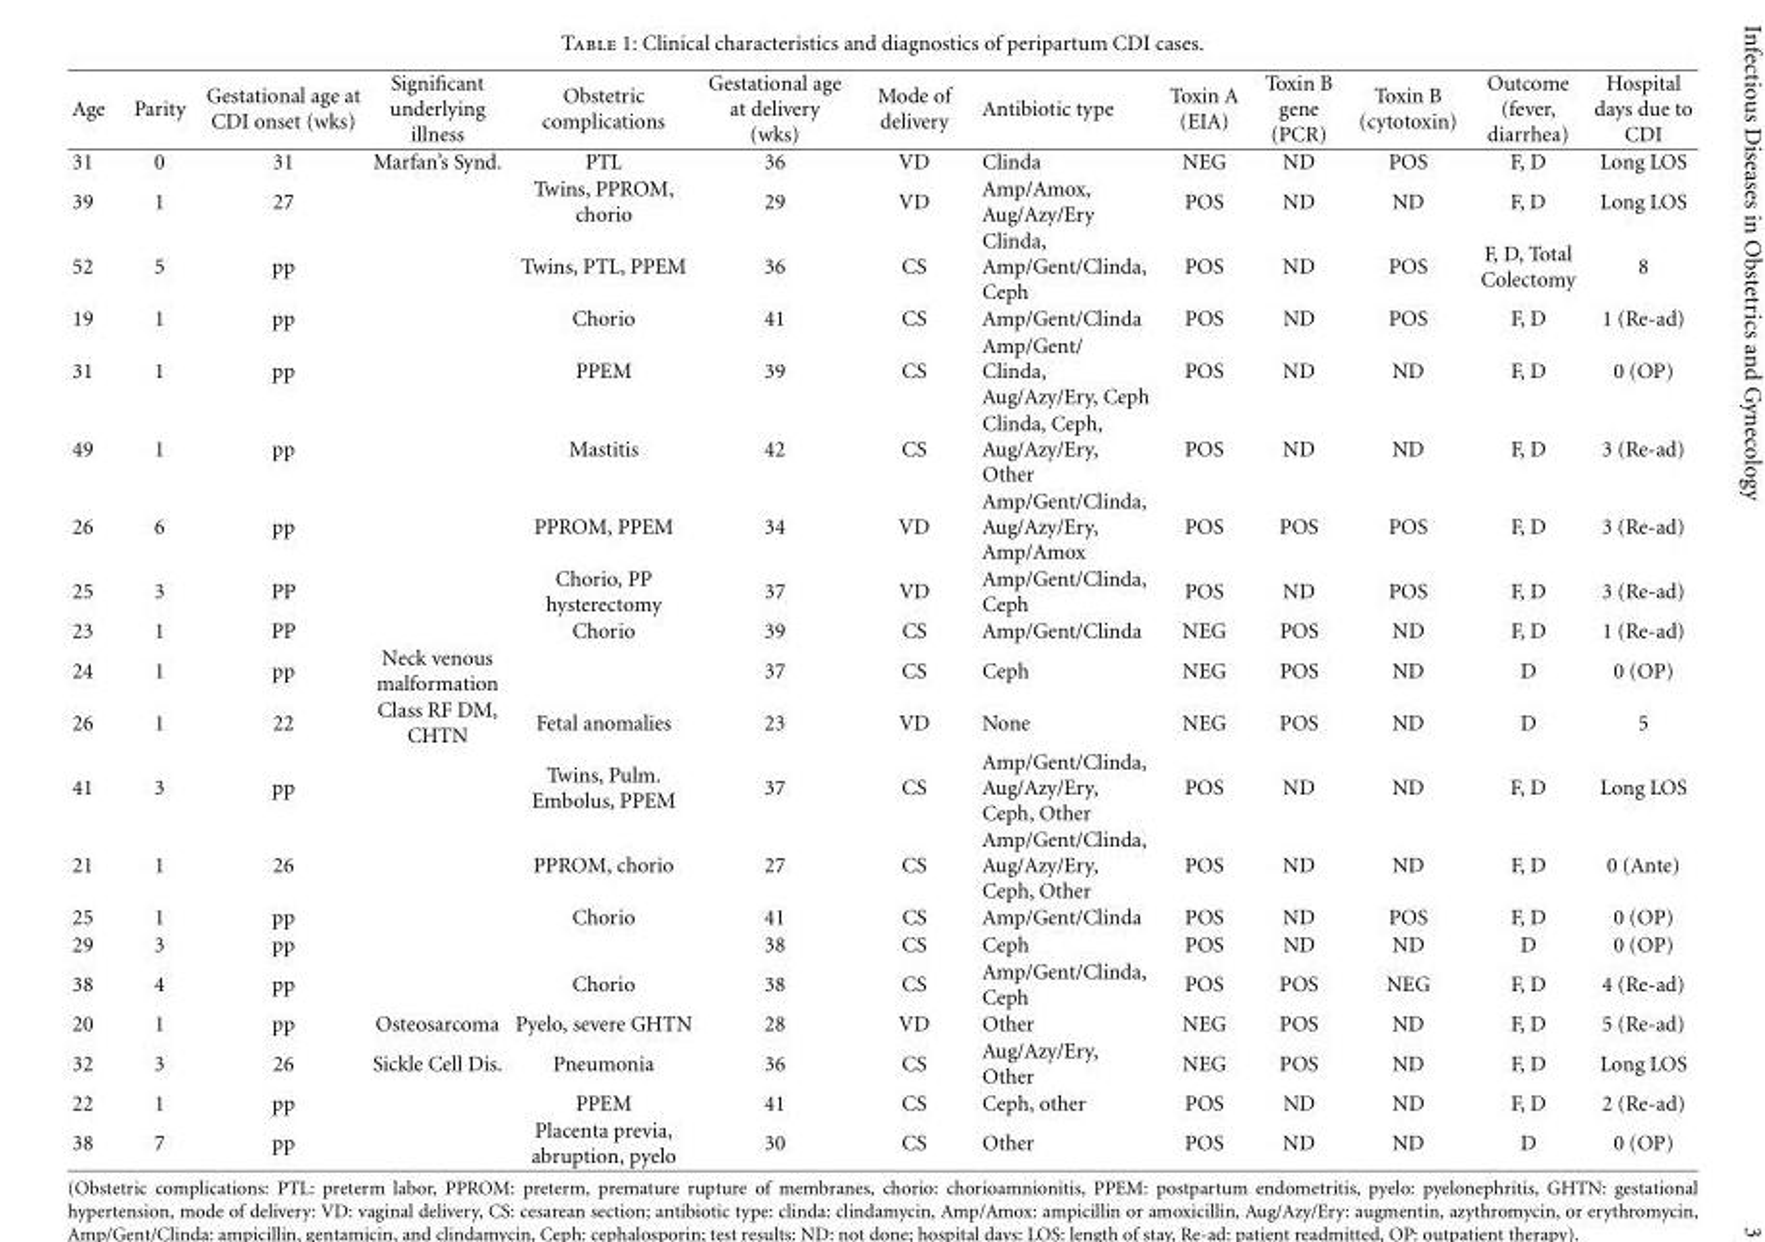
<table><thead><tr><td>Age</td><td>Parity</td><td>Gestational age at CDI onset (wks)</td><td>Significant underlying illness</td><td>Obstetric complications</td><td>Gestational age at delivery (wks)</td><td>Mode of delivery</td><td>Antibiotic type</td><td>Toxin A (EIA)</td><td>Toxin B gene (PCR)</td><td>Toxin B (cytotoxin)</td><td>Outcome (fever, diarrhea)</td><td>Hospital days due to CDI</td></tr></thead><tbody><tr><td>31</td><td>0</td><td>31</td><td>Marfan’s Synd.</td><td>PTL</td><td>36</td><td>VD</td><td>Clinda</td><td>NEG</td><td>ND</td><td>POS</td><td>F, D</td><td>Long LOS</td></tr><tr><td>39</td><td>1</td><td>27</td><td></td><td>Twins, PPROM, chorio</td><td>29</td><td>VD</td><td>Amp/Amox, Aug/Azy/Ery</td><td>POS</td><td>ND</td><td>ND</td><td>F, D</td><td>Long LOS</td></tr><tr><td>52</td><td>5</td><td>pp</td><td></td><td>Twins, PTL, PPEM</td><td>36</td><td>CS</td><td>Clinda, Amp/Gent/Clinda, Ceph</td><td>POS</td><td>ND</td><td>POS</td><td>F, D, Total Colectomy</td><td>8</td></tr><tr><td>19</td><td>1</td><td>pp</td><td></td><td>Chorio</td><td>41</td><td>CS</td><td>Amp/Gent/Clinda</td><td>POS</td><td>ND</td><td>POS</td><td>F, D</td><td>1 (Re-ad)</td></tr><tr><td>31</td><td>1</td><td>pp</td><td></td><td>PPEM</td><td>39</td><td>CS</td><td>Amp/Gent/ Clinda, Aug/Azy/Ery, Ceph</td><td>POS</td><td>ND</td><td>ND</td><td>F, D</td><td>0 (OP)</td></tr><tr><td>49</td><td>1</td><td>pp</td><td></td><td>Mastitis</td><td>42</td><td>CS</td><td>Clinda, Ceph, Aug/Azy/Ery, Other</td><td>POS</td><td>ND</td><td>ND</td><td>F, D</td><td>3 (Re-ad)</td></tr><tr><td>26</td><td>6</td><td>pp</td><td></td><td>PPROM, PPEM</td><td>34</td><td>VD</td><td>Amp/Gent/Clinda, Aug/Azy/Ery, Amp/Amox</td><td>POS</td><td>POS</td><td>POS</td><td>F, D</td><td>3 (Re-ad)</td></tr><tr><td>25</td><td>3</td><td>PP</td><td></td><td>Chorio, PP hysterectomy</td><td>37</td><td>VD</td><td>Amp/Gent/Clinda, Ceph</td><td>POS</td><td>ND</td><td>POS</td><td>F, D</td><td>3 (Re-ad)</td></tr><tr><td>23</td><td>1</td><td>PP</td><td></td><td>Chorio</td><td>39</td><td>CS</td><td>Amp/Gent/Clinda</td><td>NEG</td><td>POS</td><td>ND</td><td>F, D</td><td>1 (Re-ad)</td></tr><tr><td>24</td><td>1</td><td>pp</td><td>Neck venous malformation</td><td></td><td>37</td><td>CS</td><td>Ceph</td><td>NEG</td><td>POS</td><td>ND</td><td>D</td><td>0 (OP)</td></tr><tr><td>26</td><td>1</td><td>22</td><td>Class RF DM, CHTN</td><td>Fetal anomalies</td><td>23</td><td>VD</td><td>None</td><td>NEG</td><td>POS</td><td>ND</td><td>D</td><td>5</td></tr><tr><td>41</td><td>3</td><td>pp</td><td></td><td>Twins, Pulm. Embolus, PPEM</td><td>37</td><td>CS</td><td>Amp/Gent/Clinda, Aug/Azy/Ery, Ceph, Other</td><td>POS</td><td>ND</td><td>ND</td><td>F, D</td><td>Long LOS</td></tr><tr><td>21</td><td>1</td><td>26</td><td></td><td>PPROM, chorio</td><td>27</td><td>CS</td><td>Amp/Gent/Clinda, Aug/Azy/Ery, Ceph, Other</td><td>POS</td><td>ND</td><td>ND</td><td>F, D</td><td>0 (Ante)</td></tr><tr><td>25</td><td>1</td><td>pp</td><td></td><td>Chorio</td><td>41</td><td>CS</td><td>Amp/Gent/Clinda</td><td>POS</td><td>ND</td><td>POS</td><td>F, D</td><td>0 (OP)</td></tr><tr><td>29</td><td>3</td><td>pp</td><td></td><td></td><td>38</td><td>CS</td><td>Ceph</td><td>POS</td><td>ND</td><td>ND</td><td>D</td><td>0 (OP)</td></tr><tr><td>38</td><td>4</td><td>pp</td><td></td><td>Chorio</td><td>38</td><td>CS</td><td>Amp/Gent/Clinda, Ceph</td><td>POS</td><td>POS</td><td>NEG</td><td>F, D</td><td>4 (Re-ad)</td></tr><tr><td>20</td><td>1</td><td>pp</td><td>Osteosarcoma</td><td>Pyelo, severe GHTN</td><td>28</td><td>VD</td><td>Other</td><td>NEG</td><td>POS</td><td>ND</td><td>F, D</td><td>5 (Re-ad)</td></tr><tr><td>32</td><td>3</td><td>26</td><td>Sickle Cell Dis.</td><td>Pneumonia</td><td>36</td><td>CS</td><td>Aug/Azy/Ery, Other</td><td>NEG</td><td>POS</td><td>ND</td><td>F, D</td><td>Long LOS</td></tr><tr><td>22</td><td>1</td><td>pp</td><td></td><td>PPEM</td><td>41</td><td>CS</td><td>Ceph, other</td><td>POS</td><td>ND</td><td>ND</td><td>F, D</td><td>2 (Re-ad)</td></tr><tr><td>38</td><td>7</td><td>pp</td><td></td><td>Placenta previa, abruption, pyelo</td><td>30</td><td>CS</td><td>Other</td><td>POS</td><td>ND</td><td>ND</td><td>D</td><td>0 (OP)</td></tr></tbody></table>